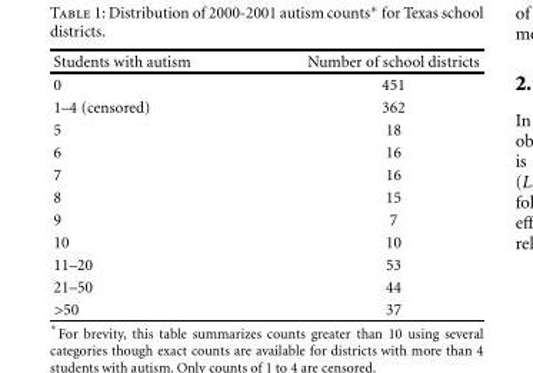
<table><thead><tr><td>Students with autism</td><td>Number of school districts</td></tr></thead><tbody><tr><td>0</td><td>451</td></tr><tr><td>1–4 (censored)</td><td>362</td></tr><tr><td>5</td><td>18</td></tr><tr><td>6</td><td>16</td></tr><tr><td>7</td><td>16</td></tr><tr><td>8</td><td>15</td></tr><tr><td>9</td><td>7</td></tr><tr><td>10</td><td>10</td></tr><tr><td>11–20</td><td>53</td></tr><tr><td>21–50</td><td>44</td></tr><tr><td>&gt;50</td><td>37</td></tr></tbody></table>